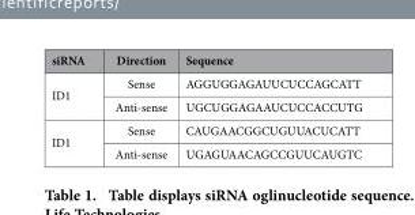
<table><thead><tr><td>siRNA</td><td>Direction</td><td>Sequence</td></tr></thead><tbody><tr><td rowspan="2">ID1</td><td>Sense</td><td>AGGUGGAGAUUCUCCAGCATT</td></tr><tr><td>Anti-sense</td><td>UGCUGGAGAAUCUCCACCUTG</td></tr><tr><td rowspan="2">ID1</td><td>Sense</td><td>CAUGAACGGCUGUUACUCATT</td></tr><tr><td>Anti-sense</td><td>UGAGUAACAGCCGUUCAUGTC</td></tr></tbody></table>